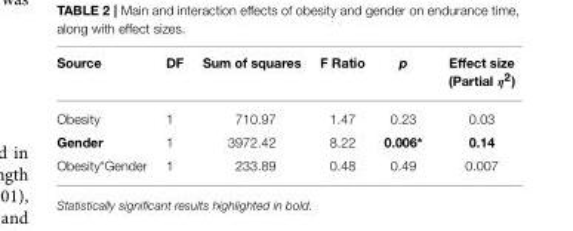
<table><thead><tr><td>Source</td><td>DF</td><td>Sum of squares</td><td>F Ratio</td><td>p</td><td>Effect size (Partial η<sup>2</sup>)</td></tr></thead><tbody><tr><td>Obesity</td><td>1</td><td>710.97</td><td>1.47</td><td>0.23</td><td>0.03</td></tr><tr><td>Gender</td><td>1</td><td>3972.42</td><td>8.22</td><td>0.006*</td><td>0.14</td></tr><tr><td>Obesity*Gender</td><td>1</td><td>233.89</td><td>0.48</td><td>0.49</td><td>0.007</td></tr></tbody></table>